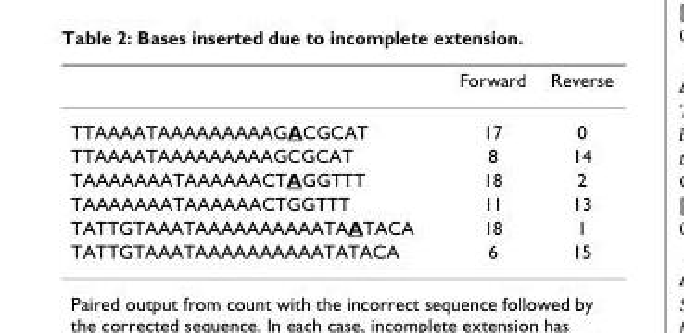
<table><thead><tr><td></td><td>Forward</td><td>Reverse</td></tr></thead><tbody><tr><td>TTAAAATAAAAAAAAAGACGCAT</td><td>17</td><td>0</td></tr><tr><td>TTAAAATAAAAAAAAAGCGCAT</td><td>8</td><td>14</td></tr><tr><td>TAAAAAAATAAAAAACTAGGTTT</td><td>18</td><td>2</td></tr><tr><td>TAAAAAAATAAAAAACTGGTTT</td><td>11</td><td>13</td></tr><tr><td>TATTGTAAATAAAAAAAAAATAATACA</td><td>18</td><td>1</td></tr><tr><td>TATTGTAAATAAAAAAAAAATATACA</td><td>6</td><td>15</td></tr></tbody></table>